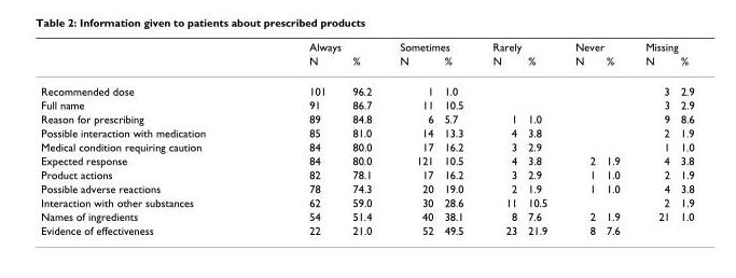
<table><thead><tr><td rowspan="2"></td><td colspan="2">Always</td><td colspan="2">Sometimes</td><td colspan="2">Rarely</td><td colspan="2">Never</td><td colspan="2">Missing</td></tr><tr><td>N</td><td>%</td><td>N</td><td>%</td><td>N</td><td>%</td><td>N</td><td>%</td><td>N</td><td>%</td></tr></thead><tbody><tr><td>Recommended dose</td><td>101</td><td>96.2</td><td>1</td><td>1.0</td><td></td><td></td><td></td><td></td><td>3</td><td>2.9</td></tr><tr><td>Full name</td><td>91</td><td>86.7</td><td>11</td><td>10.5</td><td></td><td></td><td></td><td></td><td>3</td><td>2.9</td></tr><tr><td>Reason for prescribing</td><td>89</td><td>84.8</td><td>6</td><td>5.7</td><td>1</td><td>1.0</td><td></td><td></td><td>9</td><td>8.6</td></tr><tr><td>Possible interaction with medication</td><td>85</td><td>81.0</td><td>14</td><td>13.3</td><td>4</td><td>3.8</td><td></td><td></td><td>2</td><td>1.9</td></tr><tr><td>Medical condition requiring caution</td><td>84</td><td>80.0</td><td>17</td><td>16.2</td><td>3</td><td>2.9</td><td></td><td></td><td>1</td><td>1.0</td></tr><tr><td>Expected response</td><td>84</td><td>80.0</td><td>121</td><td>10.5</td><td>4</td><td>3.8</td><td>2</td><td>1.9</td><td>4</td><td>3.8</td></tr><tr><td>Product actions</td><td>82</td><td>78.1</td><td>17</td><td>16.2</td><td>3</td><td>2.9</td><td>1</td><td>1.0</td><td>2</td><td>1.9</td></tr><tr><td>Possible adverse reactions</td><td>78</td><td>74.3</td><td>20</td><td>19.0</td><td>2</td><td>1.9</td><td>1</td><td>1.0</td><td>4</td><td>3.8</td></tr><tr><td>Interaction with other substances</td><td>62</td><td>59.0</td><td>30</td><td>28.6</td><td>11</td><td>10.5</td><td></td><td></td><td>2</td><td>1.9</td></tr><tr><td>Names of ingredients</td><td>54</td><td>51.4</td><td>40</td><td>38.1</td><td>8</td><td>7.6</td><td>2</td><td>1.9</td><td>21</td><td>1.0</td></tr><tr><td>Evidence of effectiveness</td><td>22</td><td>21.0</td><td>52</td><td>49.5</td><td>23</td><td>21.9</td><td>8</td><td>7.6</td><td></td><td></td></tr></tbody></table>